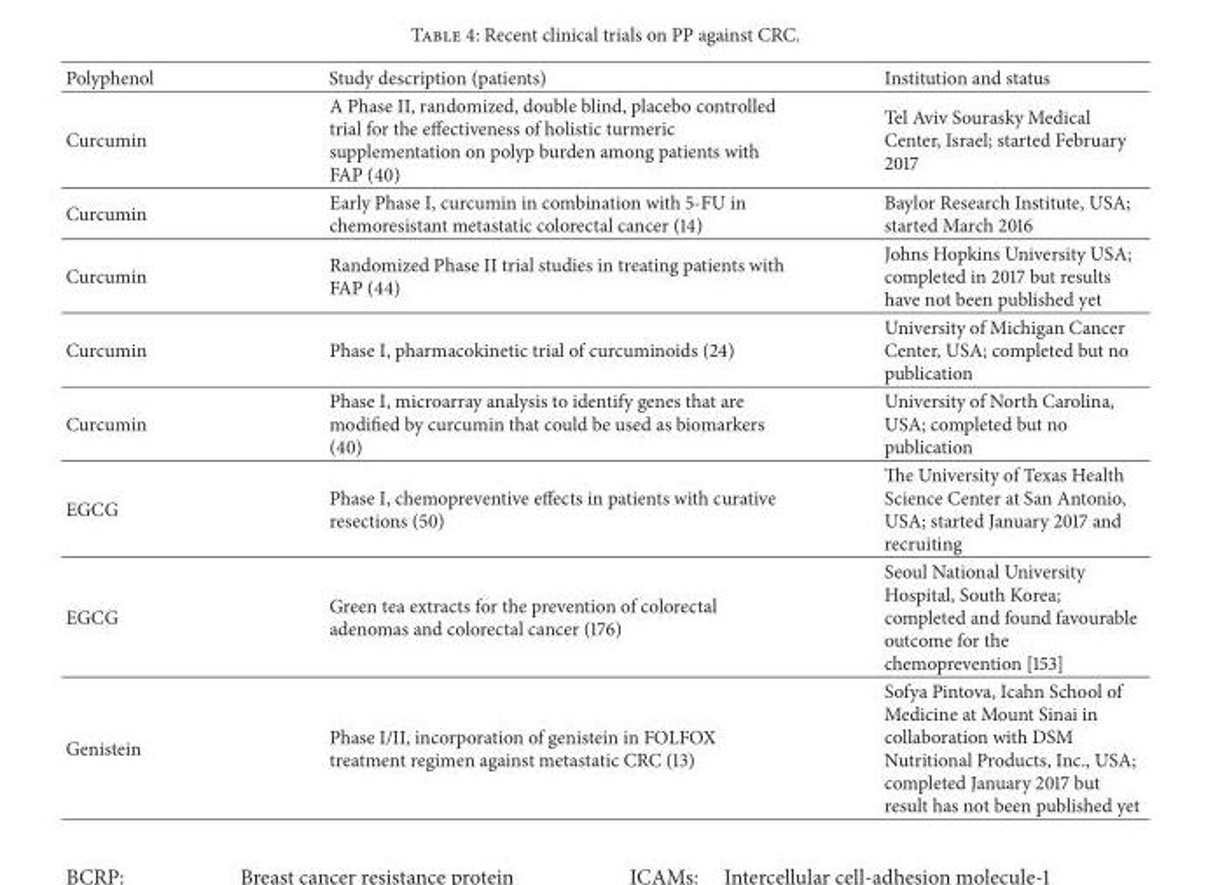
<table><thead><tr><td>Polyphenol</td><td>Study description (patients)</td><td>Institution and status</td></tr></thead><tbody><tr><td>Curcumin</td><td>A Phase II, randomized, double blind, placebo controlled trial for the effectiveness of holistic turmeric supplementation on polyp burden among patients with FAP (40)</td><td>Tel Aviv Sourasky Medical Center, Israel; started February 2017</td></tr><tr><td>Curcumin</td><td>Early Phase I, curcumin in combination with 5-FU in chemoresistant metastatic colorectal cancer (14)</td><td>Baylor Research Institute, USA; started March 2016</td></tr><tr><td>Curcumin</td><td>Randomized Phase II trial studies in treating patients with FAP (44)</td><td>Johns Hopkins University USA; completed in 2017 but results have not been published yet</td></tr><tr><td>Curcumin</td><td>Phase I, pharmacokinetic trial of curcuminoids (24)</td><td>University of Michigan Cancer Center, USA; completed but no publication</td></tr><tr><td>Curcumin</td><td>Phase I, microarray analysis to identify genes that are modified by curcumin that could be used as biomarkers (40)</td><td>University of North Carolina, USA; completed but no publication</td></tr><tr><td>EGCG</td><td>Phase I, chemopreventive effects in patients with curative resections (50)</td><td>The University of Texas Health Science Center at San Antonio, USA; started January 2017 and recruiting</td></tr><tr><td>EGCG</td><td>Green tea extracts for the prevention of colorectal adenomas and colorectal cancer (176)</td><td>Seoul National University Hospital, South Korea; completed and found favourable outcome for the chemoprevention [153]</td></tr><tr><td>Genistein</td><td>Phase I/II, incorporation of genistein in FOLFOX treatment regimen against metastatic CRC (13)</td><td>Sofya Pintova, Icahn School of Medicine at Mount Sinai in collaboration with DSM Nutritional Products, Inc., USA; completed January 2017 but result has not been published yet</td></tr></tbody></table>